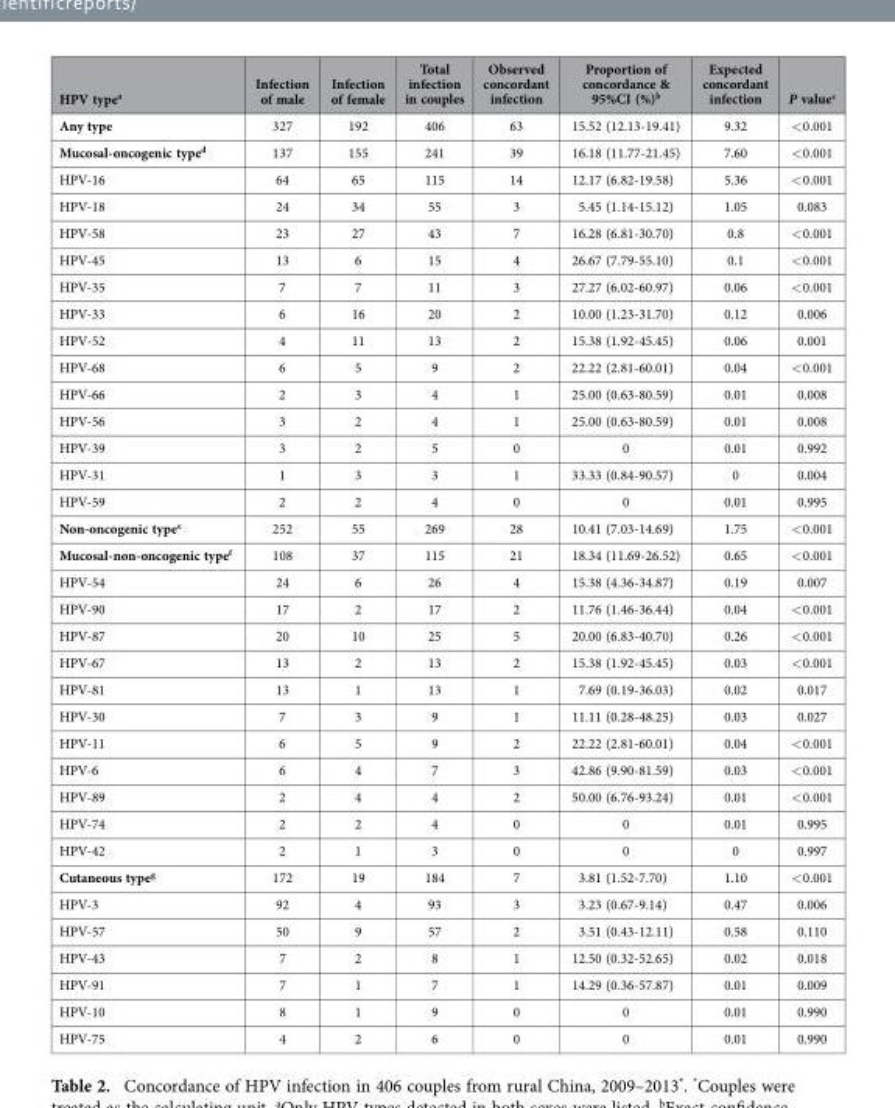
<table><thead><tr><td>HPV type<sup>a</sup></td><td>Infection of male</td><td>Infection of female</td><td>Total infection in couples</td><td>Observed concordant infection</td><td>Proportion of concordance &amp; 95%CI (%)<sup>b</sup></td><td>Expected concordant infection</td><td>P value<sup>c</sup></td></tr></thead><tbody><tr><td>Any type</td><td>327</td><td>192</td><td>406</td><td>63</td><td>15.52 (12.13-19.41)</td><td>9.32</td><td>&lt; 0.001</td></tr><tr><td>Mucosal-oncogenic type<sup>d</sup></td><td>137</td><td>155</td><td>241</td><td>39</td><td>16.18 (11.77-21.45)</td><td>7.60</td><td>&lt; 0.001</td></tr><tr><td>HPV-16</td><td>64</td><td>65</td><td>115</td><td>14</td><td>12.17 (6.82-19.58)</td><td>5.36</td><td>&lt; 0.001</td></tr><tr><td>HPV-18</td><td>24</td><td>34</td><td>55</td><td>3</td><td>5.45 (1.14-15.12)</td><td>1.05</td><td>0.083</td></tr><tr><td>HPV-58</td><td>23</td><td>27</td><td>43</td><td>7</td><td>16.28 (6.81-30.70)</td><td>0.8</td><td>&lt; 0.001</td></tr><tr><td>HPV-45</td><td>13</td><td>6</td><td>15</td><td>4</td><td>26.67 (7.79-55.10)</td><td>0.1</td><td>&lt; 0.001</td></tr><tr><td>HPV-35</td><td>7</td><td>7</td><td>11</td><td>3</td><td>27.27 (6.02-60.97)</td><td>0.06</td><td>&lt; 0.001</td></tr><tr><td>HPV-33</td><td>6</td><td>16</td><td>20</td><td>2</td><td>10.00 (1.23-31.70)</td><td>0.12</td><td>0.006</td></tr><tr><td>HPV-52</td><td>4</td><td>11</td><td>13</td><td>2</td><td>15.38 (1.92-45.45)</td><td>0.06</td><td>0.001</td></tr><tr><td>HPV-68</td><td>6</td><td>5</td><td>9</td><td>2</td><td>22.22 (2.81-60.01)</td><td>0.04</td><td>&lt; 0.001</td></tr><tr><td>HPV-66</td><td>2</td><td>3</td><td>4</td><td>1</td><td>25.00 (0.63-80.59)</td><td>0.01</td><td>0.008</td></tr><tr><td>HPV-56</td><td>3</td><td>2</td><td>4</td><td>1</td><td>25.00 (0.63-80.59)</td><td>0.01</td><td>0.008</td></tr><tr><td>HPV-39</td><td>3</td><td>2</td><td>5</td><td>0</td><td>0</td><td>0.01</td><td>0.992</td></tr><tr><td>HPV-31</td><td>1</td><td>3</td><td>3</td><td>1</td><td>33.33 (0.84-90.57)</td><td>0</td><td>0.004</td></tr><tr><td>HPV-59</td><td>2</td><td>2</td><td>4</td><td>0</td><td>0</td><td>0.01</td><td>0.995</td></tr><tr><td>Non-oncogenic type<sup>e</sup></td><td>252</td><td>55</td><td>269</td><td>28</td><td>10.41 (7.03-14.69)</td><td>1.75</td><td>&lt; 0.001</td></tr><tr><td>Mucosal-non-oncogenic type<sup>f</sup></td><td>108</td><td>37</td><td>115</td><td>21</td><td>18.34 (11.69-26.52)</td><td>0.65</td><td>&lt; 0.001</td></tr><tr><td>HPV-54</td><td>24</td><td>6</td><td>26</td><td>4</td><td>15.38 (4.36-34.87)</td><td>0.19</td><td>0.007</td></tr><tr><td>HPV-90</td><td>17</td><td>2</td><td>17</td><td>2</td><td>11.76 (1.46-36.44)</td><td>0.04</td><td>&lt; 0.001</td></tr><tr><td>HPV-87</td><td>20</td><td>10</td><td>25</td><td>5</td><td>20.00 (6.83-40.70)</td><td>0.26</td><td>&lt; 0.001</td></tr><tr><td>HPV-67</td><td>13</td><td>2</td><td>13</td><td>2</td><td>15.38 (1.92-45.45)</td><td>0.03</td><td>&lt; 0.001</td></tr><tr><td>HPV-81</td><td>13</td><td>1</td><td>13</td><td>1</td><td>7.69 (0.19-36.03)</td><td>0.02</td><td>0.017</td></tr><tr><td>HPV-30</td><td>7</td><td>3</td><td>9</td><td>1</td><td>11.11 (0.28-48.25)</td><td>0.03</td><td>0.027</td></tr><tr><td>HPV-11</td><td>6</td><td>5</td><td>9</td><td>2</td><td>22.22 (2.81-60.01)</td><td>0.04</td><td>&lt; 0.001</td></tr><tr><td>HPV-6</td><td>6</td><td>4</td><td>7</td><td>3</td><td>42.86 (9.90-81.59)</td><td>0.03</td><td>&lt; 0.001</td></tr><tr><td>HPV-89</td><td>2</td><td>4</td><td>4</td><td>2</td><td>50.00 (6.76-93.24)</td><td>0.01</td><td>&lt; 0.001</td></tr><tr><td>HPV-74</td><td>2</td><td>2</td><td>4</td><td>0</td><td>0</td><td>0.01</td><td>0.995</td></tr><tr><td>HPV-42</td><td>2</td><td>1</td><td>3</td><td>0</td><td>0</td><td>0</td><td>0.997</td></tr><tr><td>Cutaneous type<sup>g</sup></td><td>172</td><td>19</td><td>184</td><td>7</td><td>3.81 (1.52-7.70)</td><td>1.10</td><td>&lt; 0.001</td></tr><tr><td>HPV-3</td><td>92</td><td>4</td><td>93</td><td>3</td><td>3.23 (0.67-9.14)</td><td>0.47</td><td>0.006</td></tr><tr><td>HPV-57</td><td>50</td><td>9</td><td>57</td><td>2</td><td>3.51 (0.43-12.11)</td><td>0.58</td><td>0.110</td></tr><tr><td>HPV-43</td><td>7</td><td>2</td><td>8</td><td>1</td><td>12.50 (0.32-52.65)</td><td>0.02</td><td>0.018</td></tr><tr><td>HPV-91</td><td>7</td><td>1</td><td>7</td><td>1</td><td>14.29 (0.36-57.87)</td><td>0.01</td><td>0.009</td></tr><tr><td>HPV-10</td><td>8</td><td>1</td><td>9</td><td>0</td><td>0</td><td>0.01</td><td>0.990</td></tr><tr><td>HPV-75</td><td>4</td><td>2</td><td>6</td><td>0</td><td>0</td><td>0.01</td><td>0.990</td></tr></tbody></table>